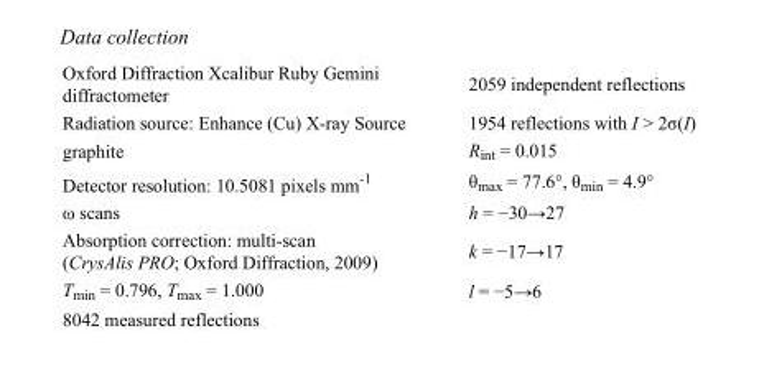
<table><tbody><tr><td>Oxford Diffraction Xcalibur Ruby Gemini diffractometer</td><td>2059 independent reflections</td></tr><tr><td>Radiation source: Enhance (Cu) X-ray Source</td><td>1954 reflections with I &gt; 2σ(I)</td></tr><tr><td>graphite</td><td>R<sub>int</sub> = 0.015</td></tr><tr><td>Detector resolution: 10.5081 pixels mm<sup>-1</sup></td><td>θ<sub>max</sub> = 77.6°, θ<sub>min</sub> = 4.9°</td></tr><tr><td>ω scans</td><td>h = −30→27</td></tr><tr><td>Absorption correction: multi-scan (CrysAlis PRO; Oxford Diffraction, 2009)</td><td>k = −17→17</td></tr><tr><td>T<sub>min</sub> = 0.796, T<sub>max</sub> = 1.000</td><td>l = −5→6</td></tr><tr><td>8042 measured reflections</td><td></td></tr></tbody></table>